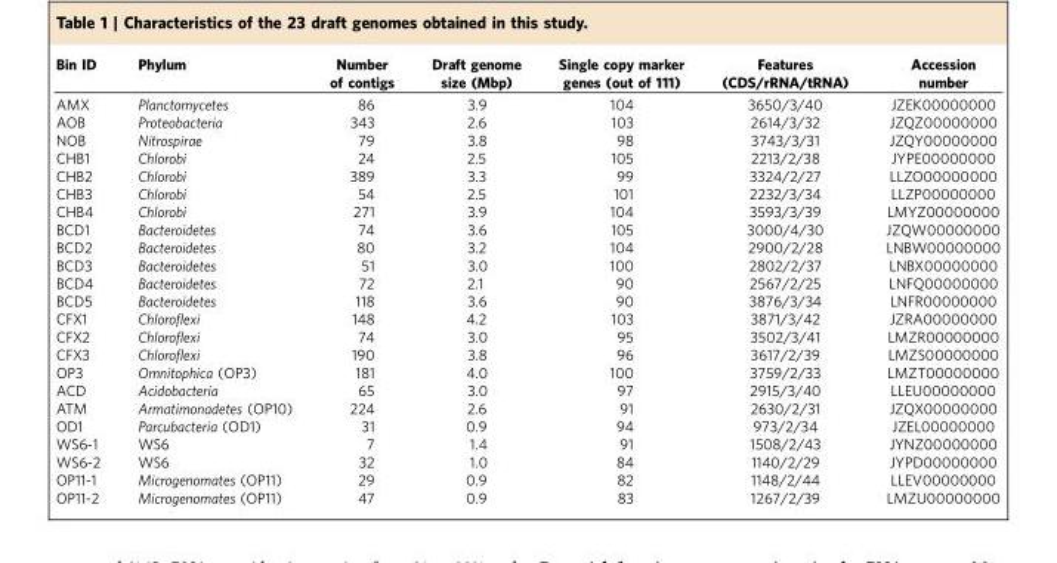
<table><thead><tr><td>Bin ID</td><td>Phylum</td><td>Number of contigs</td><td>Draft genome size (Mbp)</td><td>Single copy marker genes (out of 111)</td><td>Features (CDS/rRNA/tRNA)</td><td>Accession number</td></tr></thead><tbody><tr><td>AMX</td><td>Planctomycetes</td><td>86</td><td>3.9</td><td>104</td><td>3650/3/40</td><td>JZEK00000000</td></tr><tr><td>AOB</td><td>Proteobacteria</td><td>343</td><td>2.6</td><td>103</td><td>2614/3/32</td><td>JZQZ00000000</td></tr><tr><td>NOB</td><td>Nitrospirae</td><td>79</td><td>3.8</td><td>98</td><td>3743/3/31</td><td>JZQY00000000</td></tr><tr><td>CHB1</td><td>Chlorobi</td><td>24</td><td>2.5</td><td>105</td><td>2213/2/38</td><td>JYPE00000000</td></tr><tr><td>CHB2</td><td>Chlorobi</td><td>389</td><td>3.3</td><td>99</td><td>3324/2/27</td><td>LLZO00000000</td></tr><tr><td>CHB3</td><td>Chlorobi</td><td>54</td><td>2.5</td><td>101</td><td>2232/3/34</td><td>LLZP00000000</td></tr><tr><td>CHB4</td><td>Chlorobi</td><td>271</td><td>3.9</td><td>104</td><td>3593/3/39</td><td>LMYZ00000000</td></tr><tr><td>BCD1</td><td>Bacteroidetes</td><td>74</td><td>3.6</td><td>105</td><td>3000/4/30</td><td>JZQW00000000</td></tr><tr><td>BCD2</td><td>Bacteroidetes</td><td>80</td><td>3.2</td><td>104</td><td>2900/2/28</td><td>LNBW00000000</td></tr><tr><td>BCD3</td><td>Bacteroidetes</td><td>51</td><td>3.0</td><td>100</td><td>2802/2/37</td><td>LNBX00000000</td></tr><tr><td>BCD4</td><td>Bacteroidetes</td><td>72</td><td>2.1</td><td>90</td><td>2567/2/25</td><td>LNFQ00000000</td></tr><tr><td>BCD5</td><td>Bacteroidetes</td><td>118</td><td>3.6</td><td>90</td><td>3876/3/34</td><td>LNFR00000000</td></tr><tr><td>CFX1</td><td>Chloroflexi</td><td>148</td><td>4.2</td><td>103</td><td>3871/3/42</td><td>JZRA00000000</td></tr><tr><td>CFX2</td><td>Chloroflexi</td><td>74</td><td>3.0</td><td>95</td><td>3502/3/41</td><td>LMZR00000000</td></tr><tr><td>CFX3</td><td>Chloroflexi</td><td>190</td><td>3.8</td><td>96</td><td>3617/2/39</td><td>LMZS00000000</td></tr><tr><td>OP3</td><td>Omnitophica (OP3)</td><td>181</td><td>4.0</td><td>100</td><td>3759/2/33</td><td>LMZT00000000</td></tr><tr><td>ACD</td><td>Acidobacteria</td><td>65</td><td>3.0</td><td>97</td><td>2915/3/40</td><td>LLEU00000000</td></tr><tr><td>ATM</td><td>Armatimonadetes (OP10)</td><td>224</td><td>2.6</td><td>91</td><td>2630/2/31</td><td>JZQX00000000</td></tr><tr><td>OD1</td><td>Parcubacteria (OD1)</td><td>31</td><td>0.9</td><td>94</td><td>973/2/34</td><td>JZEL00000000</td></tr><tr><td>WS6-1</td><td>WS6</td><td>7</td><td>1.4</td><td>91</td><td>1508/2/43</td><td>JYNZ00000000</td></tr><tr><td>WS6-2</td><td>WS6</td><td>32</td><td>1.0</td><td>84</td><td>1140/2/29</td><td>JYPD00000000</td></tr><tr><td>OP11-1</td><td>Microgenomates (OP11)</td><td>29</td><td>0.9</td><td>82</td><td>1148/2/44</td><td>LLEV00000000</td></tr><tr><td>OP11-2</td><td>Microgenomates (OP11)</td><td>47</td><td>0.9</td><td>83</td><td>1267/2/39</td><td>LMZU00000000</td></tr></tbody></table>